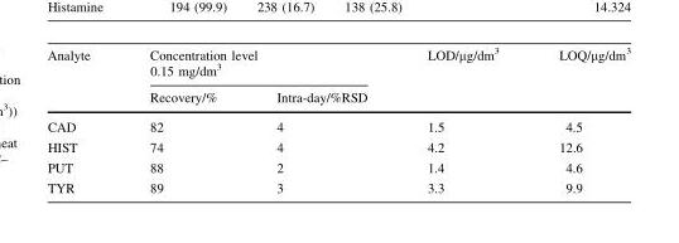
<table><thead><tr><td rowspan="2">Analyte</td><td colspan="2">Concentration level 0.15 mg/dm<sup>3</sup></td><td rowspan="2">LOD/µg/dm<sup>3</sup></td><td rowspan="2">LOQ/µg/dm<sup>3</sup></td></tr><tr><td>Recovery/%</td><td>Intra-day/%RSD</td></tr></thead><tbody><tr><td>CAD</td><td>82</td><td>4</td><td>1.5</td><td>4.5</td></tr><tr><td>HIST</td><td>74</td><td>4</td><td>4.2</td><td>12.6</td></tr><tr><td>PUT</td><td>88</td><td>2</td><td>1.4</td><td>4.6</td></tr><tr><td>TYR</td><td>89</td><td>3</td><td>3.3</td><td>9.9</td></tr></tbody></table>